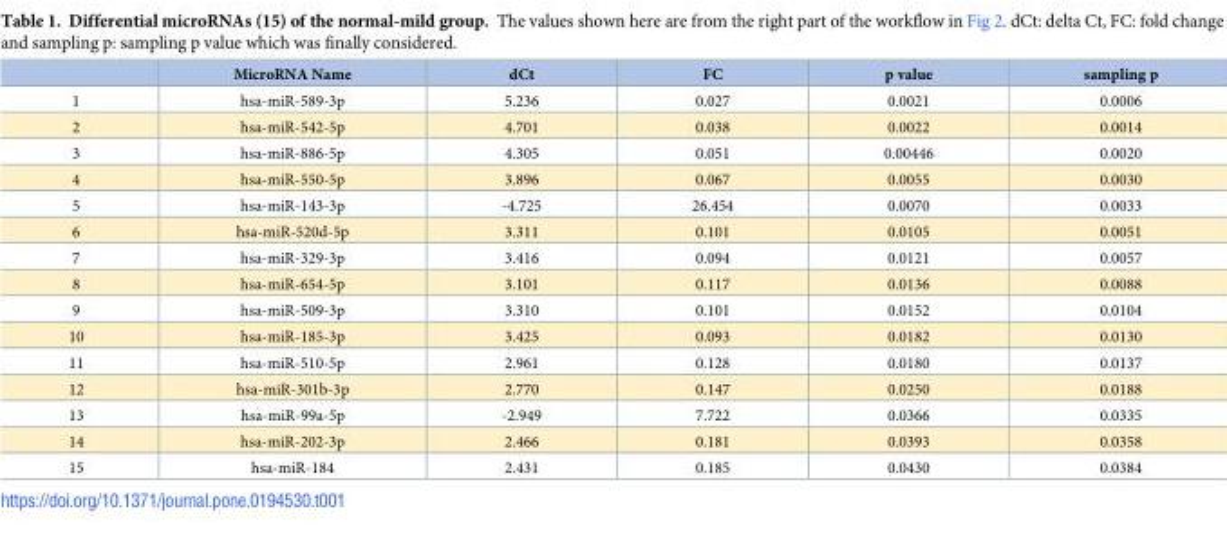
<table><thead><tr><td></td><td>MicroRNA Name</td><td>dCt</td><td>FC</td><td>p value</td><td>sampling p</td></tr></thead><tbody><tr><td>1</td><td>hsa-miR-589-3p</td><td>5.236</td><td>0.027</td><td>0.0021</td><td>0.0006</td></tr><tr><td>2</td><td>hsa-miR-542-5p</td><td>4.701</td><td>0.038</td><td>0.0022</td><td>0.0014</td></tr><tr><td>3</td><td>hsa-miR-886-5p</td><td>4.305</td><td>0.051</td><td>0.00446</td><td>0.0020</td></tr><tr><td>4</td><td>hsa-miR-550-5p</td><td>3.896</td><td>0.067</td><td>0.0055</td><td>0.0030</td></tr><tr><td>5</td><td>hsa-miR-143-3p</td><td>-4.725</td><td>26.454</td><td>0.0070</td><td>0.0033</td></tr><tr><td>6</td><td>hsa-miR-520d-5p</td><td>3.311</td><td>0.101</td><td>0.0105</td><td>0.0051</td></tr><tr><td>7</td><td>hsa-miR-329-3p</td><td>3.416</td><td>0.094</td><td>0.0121</td><td>0.0057</td></tr><tr><td>8</td><td>hsa-miR-654-5p</td><td>3.101</td><td>0.117</td><td>0.0136</td><td>0.0088</td></tr><tr><td>9</td><td>hsa-miR-509-3p</td><td>3.310</td><td>0.101</td><td>0.0152</td><td>0.0104</td></tr><tr><td>10</td><td>hsa-miR-185-3p</td><td>3.425</td><td>0.093</td><td>0.0182</td><td>0.0130</td></tr><tr><td>11</td><td>hsa-miR-510-5p</td><td>2.961</td><td>0.128</td><td>0.0180</td><td>0.0137</td></tr><tr><td>12</td><td>hsa-miR-301b-3p</td><td>2.770</td><td>0.147</td><td>0.0250</td><td>0.0188</td></tr><tr><td>13</td><td>hsa-miR-99a-5p</td><td>-2.949</td><td>7.722</td><td>0.0366</td><td>0.0335</td></tr><tr><td>14</td><td>hsa-miR-202-3p</td><td>2.466</td><td>0.181</td><td>0.0393</td><td>0.0358</td></tr><tr><td>15</td><td>hsa-miR-184</td><td>2.431</td><td>0.185</td><td>0.0430</td><td>0.0384</td></tr></tbody></table>